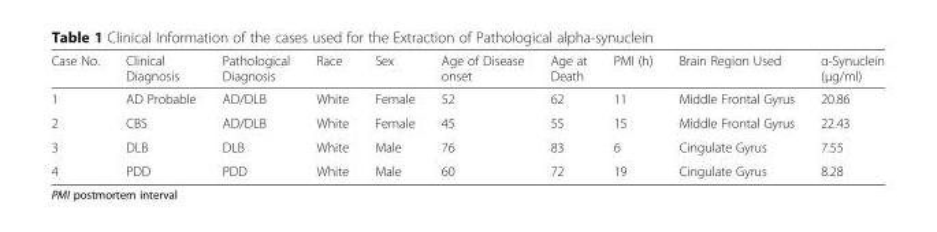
<table><thead><tr><td>Case No.</td><td>Clinical Diagnosis</td><td>Pathological Diagnosis</td><td>Race</td><td>Sex</td><td>Age of Disease onset</td><td>Age at Death</td><td>PMI (h)</td><td>Brain Region Used</td><td>α-Synuclein (μg/ml)</td></tr></thead><tbody><tr><td>1</td><td>AD Probable</td><td>AD/DLB</td><td>White</td><td>Female</td><td>52</td><td>62</td><td>11</td><td>Middle Frontal Gyrus</td><td>20.86</td></tr><tr><td>2</td><td>CBS</td><td>AD/DLB</td><td>White</td><td>Female</td><td>45</td><td>55</td><td>15</td><td>Middle Frontal Gyrus</td><td>22.43</td></tr><tr><td>3</td><td>DLB</td><td>DLB</td><td>White</td><td>Male</td><td>76</td><td>83</td><td>6</td><td>Cingulate Gyrus</td><td>7.55</td></tr><tr><td>4</td><td>PDD</td><td>PDD</td><td>White</td><td>Male</td><td>60</td><td>72</td><td>19</td><td>Cingulate Gyrus</td><td>8.28</td></tr></tbody></table>